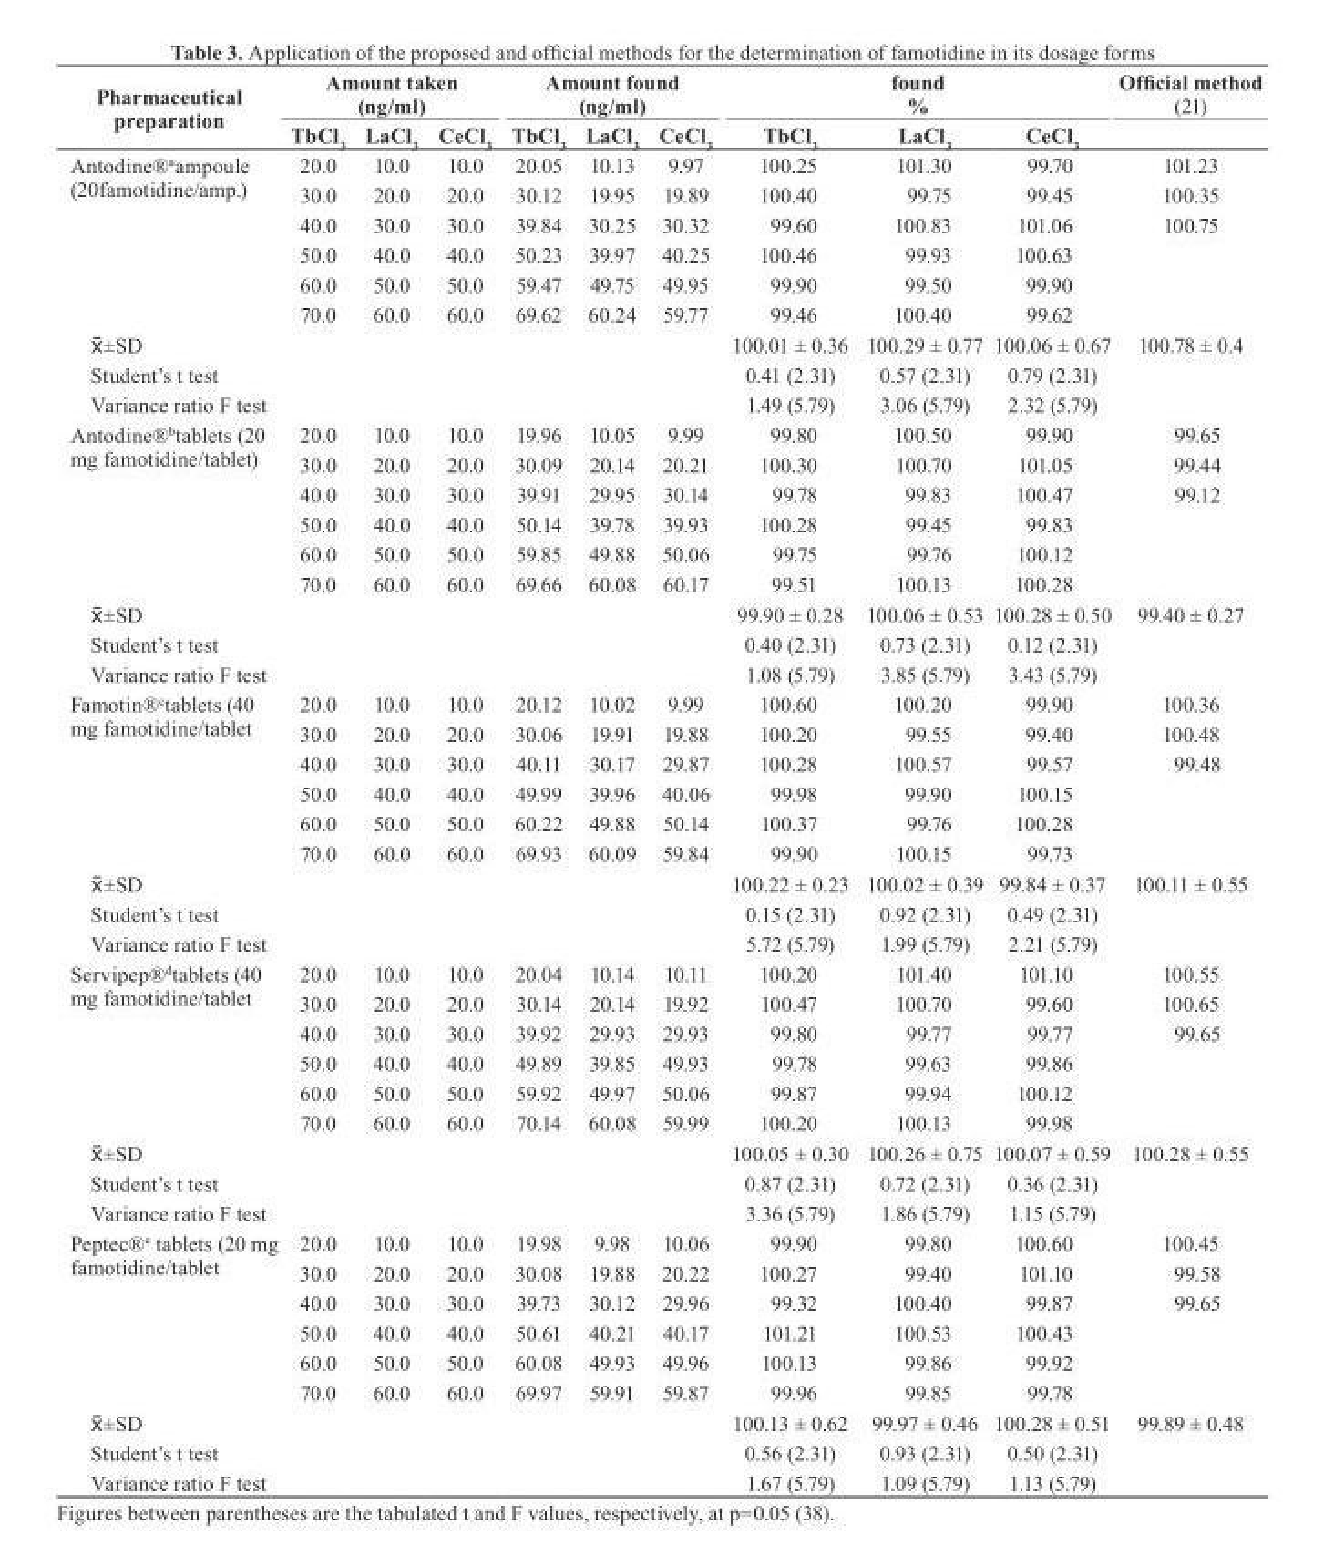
<table><thead><tr><td rowspan="2">pharmaceutical preparation</td><td colspan="3">Amount taken (ng/ml)</td><td colspan="3">Amount found (ng/ml)</td><td colspan="3">found %</td><td rowspan="2">Official method (21)</td></tr><tr><td>TbCl<sub>3</sub></td><td>LaCl<sub>3</sub></td><td>cecl<sub>3</sub></td><td>TbCl<sub>3</sub></td><td>LaCl<sub>3</sub></td><td>cecl<sub>3</sub></td><td>TbCl<sub>3</sub></td><td>LaCl<sub>3</sub></td><td>cecl<sub>3</sub></td></tr></thead><tbody><tr><td rowspan="6">Antodine®<sup>a</sup>ampoule (20famotidine/amp.)</td><td>20.0</td><td>10.0</td><td>10.0</td><td>20.05</td><td>10.13</td><td>9.97</td><td>100.25</td><td>101.30</td><td>99.70</td><td>101.23</td></tr><tr><td>30.0</td><td>20.0</td><td>20.0</td><td>30.12</td><td>19.95</td><td>19.89</td><td>100.40</td><td>99.75</td><td>99.45</td><td>100.35</td></tr><tr><td>40.0</td><td>30.0</td><td>30.0</td><td>39.84</td><td>30.25</td><td>30.32</td><td>99.60</td><td>100.83</td><td>101.06</td><td>100.75</td></tr><tr><td>50.0</td><td>40.0</td><td>40.0</td><td>50.23</td><td>39.97</td><td>40.25</td><td>100.46</td><td>99.93</td><td>100.63</td><td></td></tr><tr><td>60.0</td><td>50.0</td><td>50.0</td><td>59.47</td><td>49.75</td><td>49.95</td><td>99.90</td><td>99.50</td><td>99.90</td><td></td></tr><tr><td>70.0</td><td>60.0</td><td>60.0</td><td>69.62</td><td>60.24</td><td>59.77</td><td>99.46</td><td>100.40</td><td>99.62</td><td></td></tr><tr><td>X±SD</td><td></td><td></td><td></td><td></td><td></td><td></td><td>100.01 ± 0.36</td><td>100.29 ± 0.77</td><td>100.06 ± 0.67</td><td>100.78 ± 0.4</td></tr><tr><td>Student’s t test</td><td></td><td></td><td></td><td></td><td></td><td></td><td>0.41 (2.31)</td><td>0.57 (2.31)</td><td>0.79 (2.31)</td><td></td></tr><tr><td>Variance ratio F test</td><td></td><td></td><td></td><td></td><td></td><td></td><td>1.49 (5.79)</td><td>3.06 (5.79)</td><td>2.32 (5.79)</td><td></td></tr><tr><td rowspan="6">Antodine®<sup>b</sup>tablets (20 mg famotidine/tablet)</td><td>20.0</td><td>10.0</td><td>10.0</td><td>19.96</td><td>10.05</td><td>9.99</td><td>99.80</td><td>100.50</td><td>99.90</td><td>99.65</td></tr><tr><td>30.0</td><td>20.0</td><td>20.0</td><td>30.09</td><td>20.14</td><td>20.21</td><td>100.30</td><td>100.70</td><td>101.05</td><td>99.44</td></tr><tr><td>40.0</td><td>30.0</td><td>30.0</td><td>39.91</td><td>29.95</td><td>30.14</td><td>99.78</td><td>99.83</td><td>100.47</td><td>99.12</td></tr><tr><td>50.0</td><td>40.0</td><td>40.0</td><td>50.14</td><td>39.78</td><td>39.93</td><td>100.28</td><td>99.45</td><td>99.83</td><td></td></tr><tr><td>60.0</td><td>50.0</td><td>50.0</td><td>59.85</td><td>49.88</td><td>50.06</td><td>99.75</td><td>99.76</td><td>100.12</td><td></td></tr><tr><td>70.0</td><td>60.0</td><td>60.0</td><td>69.66</td><td>60.08</td><td>60.17</td><td>99.51</td><td>100.13</td><td>100.28</td><td></td></tr><tr><td>X±SD</td><td></td><td></td><td></td><td></td><td></td><td></td><td>99.90 ± 0.28</td><td>100.06 ± 0.53</td><td>100.28 ± 0.50</td><td>99.40 ± 0.27</td></tr><tr><td>Student’s t test</td><td></td><td></td><td></td><td></td><td></td><td></td><td>0.40 (2.31)</td><td>0.73 (2.31)</td><td>0.12 (2.31)</td><td></td></tr><tr><td>Variance ratio F test</td><td></td><td></td><td></td><td></td><td></td><td></td><td>1.08 (5.79)</td><td>3.85 (5.79)</td><td>3.43 (5.79)</td><td></td></tr><tr><td rowspan="6">Famotin®<sup>c</sup>tablets (40 mg famotidine/tablet</td><td>20.0</td><td>10.0</td><td>10.0</td><td>20.12</td><td>10.02</td><td>9.99</td><td>100.60</td><td>100.20</td><td>99.90</td><td>100.36</td></tr><tr><td>30.0</td><td>20.0</td><td>20.0</td><td>30.06</td><td>19.91</td><td>19.88</td><td>100.20</td><td>99.55</td><td>99.40</td><td>100.48</td></tr><tr><td>40.0</td><td>30.0</td><td>30.0</td><td>40.11</td><td>30.17</td><td>29.87</td><td>100.28</td><td>100.57</td><td>99.57</td><td>99.48</td></tr><tr><td>50.0</td><td>40.0</td><td>40.0</td><td>49.99</td><td>39.96</td><td>40.06</td><td>99.98</td><td>99.90</td><td>100.15</td><td></td></tr><tr><td>60.0</td><td>50.0</td><td>50.0</td><td>60.22</td><td>49.88</td><td>50.14</td><td>100.37</td><td>99.76</td><td>100.28</td><td></td></tr><tr><td>70.0</td><td>60.0</td><td>60.0</td><td>69.93</td><td>60.09</td><td>59.84</td><td>99.90</td><td>100.15</td><td>99.73</td><td></td></tr><tr><td>X±SD</td><td></td><td></td><td></td><td></td><td></td><td></td><td>100.22 ± 0.23</td><td>100.02 ± 0.39</td><td>99.84 ± 0.37</td><td>100.11 ± 0.55</td></tr><tr><td>Student’s t test</td><td></td><td></td><td></td><td></td><td></td><td></td><td>0.15 (2.31)</td><td>0.92 (2.31)</td><td>0.49 (2.31)</td><td></td></tr><tr><td>Variance ratio F test</td><td></td><td></td><td></td><td></td><td></td><td></td><td>5.72 (5.79)</td><td>1.99 (5.79)</td><td>2.21 (5.79)</td><td></td></tr><tr><td rowspan="6">Servipep®<sup>d</sup>tablets (40 mg famotidine/tablet</td><td>20.0</td><td>10.0</td><td>10.0</td><td>20.04</td><td>10.14</td><td>10.11</td><td>100.20</td><td>101.40</td><td>101.10</td><td>100.55</td></tr><tr><td>30.0</td><td>20.0</td><td>20.0</td><td>30.14</td><td>20.14</td><td>19.92</td><td>100.47</td><td>100.70</td><td>99.60</td><td>100.65</td></tr><tr><td>40.0</td><td>30.0</td><td>30.0</td><td>39.92</td><td>29.93</td><td>29.93</td><td>99.80</td><td>99.77</td><td>99.77</td><td>99.65</td></tr><tr><td>50.0</td><td>40.0</td><td>40.0</td><td>49.89</td><td>39.85</td><td>49.93</td><td>99.78</td><td>99.63</td><td>99.86</td><td></td></tr><tr><td>60.0</td><td>50.0</td><td>50.0</td><td>59.92</td><td>49.97</td><td>50.06</td><td>99.87</td><td>99.94</td><td>100.12</td><td></td></tr><tr><td>70.0</td><td>60.0</td><td>60.0</td><td>70.14</td><td>60.08</td><td>59.99</td><td>100.20</td><td>100.13</td><td>99.98</td><td></td></tr><tr><td>X±SD</td><td></td><td></td><td></td><td></td><td></td><td></td><td>100.05 ± 0.30</td><td>100.26 ± 0.75</td><td>100.07 ± 0.59</td><td>100.28 ± 0.55</td></tr><tr><td>Student’s t test</td><td></td><td></td><td></td><td></td><td></td><td></td><td>0.87 (2.31)</td><td>0.72 (2.31)</td><td>0.36 (2.31)</td><td></td></tr><tr><td>Variance ratio F test</td><td></td><td></td><td></td><td></td><td></td><td></td><td>3.36 (5.79)</td><td>1.86 (5.79)</td><td>1.15 (5.79)</td><td></td></tr><tr><td rowspan="6">Peptec®<sup>e</sup> tablets (20 mg famotidine/tablet</td><td>20.0</td><td>10.0</td><td>10.0</td><td>19.98</td><td>9.98</td><td>10.06</td><td>99.90</td><td>99.80</td><td>100.60</td><td>100.45</td></tr><tr><td>30.0</td><td>20.0</td><td>20.0</td><td>30.08</td><td>19.88</td><td>20.22</td><td>100.27</td><td>99.40</td><td>101.10</td><td>99.58</td></tr><tr><td>40.0</td><td>30.0</td><td>30.0</td><td>39.73</td><td>30.12</td><td>29.96</td><td>99.32</td><td>100.40</td><td>99.87</td><td>99.65</td></tr><tr><td>50.0</td><td>40.0</td><td>40.0</td><td>50.61</td><td>40.21</td><td>40.17</td><td>101.21</td><td>100.53</td><td>100.43</td><td></td></tr><tr><td>60.0</td><td>50.0</td><td>50.0</td><td>60.08</td><td>49.93</td><td>49.96</td><td>100.13</td><td>99.86</td><td>99.92</td><td></td></tr><tr><td>70.0</td><td>60.0</td><td>60.0</td><td>69.97</td><td>59.91</td><td>59.87</td><td>99.96</td><td>99.85</td><td>99.78</td><td></td></tr><tr><td>X±SD</td><td></td><td></td><td></td><td></td><td></td><td></td><td>100.13 ± 0.62</td><td>99.97 ± 0.46</td><td>100.28 ± 0.51</td><td>99.89 ± 0.48</td></tr><tr><td>Student’s t test</td><td></td><td></td><td></td><td></td><td></td><td></td><td>0.56 (2.31)</td><td>0.93 (2.31)</td><td>0.50 (2.31)</td><td></td></tr><tr><td>Variance ratio F test</td><td></td><td></td><td></td><td></td><td></td><td></td><td>1.67 (5.79)</td><td>1.09 (5.79)</td><td>1.13 (5.79)</td><td></td></tr></tbody></table>